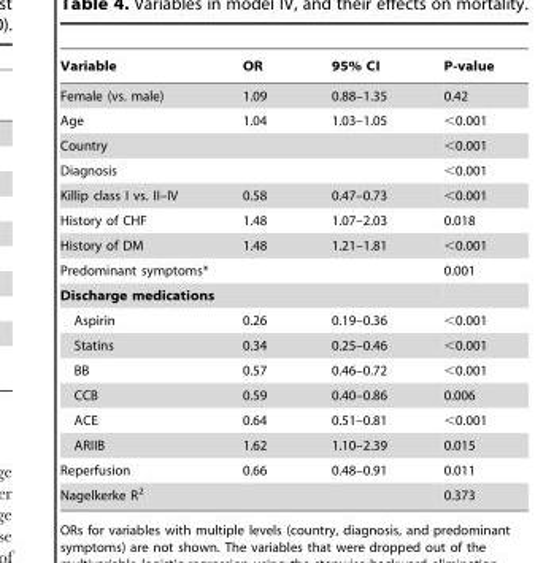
<table><thead><tr><td>Variable</td><td>OR</td><td>95% CI</td><td>P-value</td></tr></thead><tbody><tr><td>Female (vs. male)</td><td>1.09</td><td>0.88–1.35</td><td>0.42</td></tr><tr><td>Age</td><td>1.04</td><td>1.03–1.05</td><td>&lt;0.001</td></tr><tr><td>Country</td><td></td><td></td><td>&lt;0.001</td></tr><tr><td>Diagnosis</td><td></td><td></td><td>&lt;0.001</td></tr><tr><td>Killip class I vs. II–IV</td><td>0.58</td><td>0.47–0.73</td><td>&lt;0.001</td></tr><tr><td>History of CHF</td><td>1.48</td><td>1.07–2.03</td><td>0.018</td></tr><tr><td>History of DM</td><td>1.48</td><td>1.21–1.81</td><td>&lt;0.001</td></tr><tr><td>Predominant symptoms*</td><td></td><td></td><td>0.001</td></tr><tr><td colspan="4">Discharge medications</td></tr><tr><td>Aspirin</td><td>0.26</td><td>0.19–0.36</td><td>&lt;0.001</td></tr><tr><td>Statins</td><td>0.34</td><td>0.25–0.46</td><td>&lt;0.001</td></tr><tr><td>BB</td><td>0.57</td><td>0.46–0.72</td><td>&lt;0.001</td></tr><tr><td>CCB</td><td>0.59</td><td>0.40–0.86</td><td>0.006</td></tr><tr><td>ACE</td><td>0.64</td><td>0.51–0.81</td><td>&lt;0.001</td></tr><tr><td>ARIIB</td><td>1.62</td><td>1.10–2.39</td><td>0.015</td></tr><tr><td>Reperfusion</td><td>0.66</td><td>0.48–0.91</td><td>0.011</td></tr><tr><td>Nagelkerke R<sup>2</sup></td><td></td><td></td><td>0.373</td></tr></tbody></table>